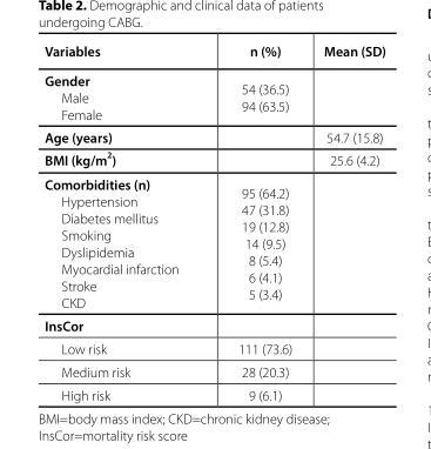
<table><thead><tr><td>Variables</td><td>n (%)</td><td>Mean (SD)</td></tr></thead><tbody><tr><td>Gender Male Female</td><td>54 (36.5) 94 (63.5)</td><td></td></tr><tr><td>Age (years)</td><td></td><td>54.7 (15.8)</td></tr><tr><td>BMI (kg/m <sup>2</sup>)</td><td></td><td>25.6 (4.2)</td></tr><tr><td>Comorbidities (n) Hypertension Diabetes mellitus Smoking Dyslipidemia Myocardial infarction Stroke CKD</td><td>95 (64.2) 47 (31.8) 19 (12.8) 14 (9.5) 8 (5.4) 6 (4.1) 5 (3.4)</td><td></td></tr><tr><td colspan="3">InsCor</td></tr><tr><td>Low risk</td><td>111 (73.6)</td><td></td></tr><tr><td>Medium risk</td><td>28 (20.3)</td><td></td></tr><tr><td>High risk</td><td>9 (6.1)</td><td></td></tr></tbody></table>